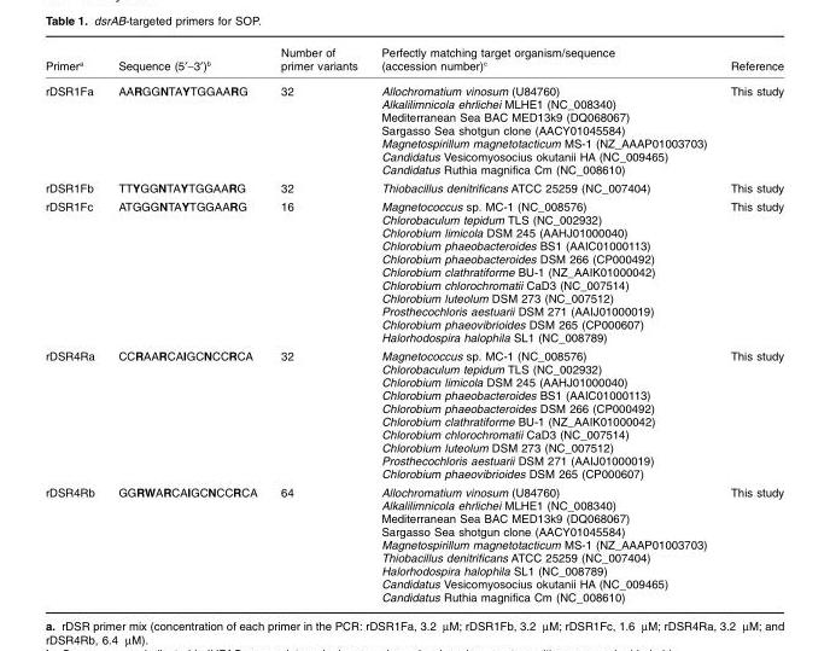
<table><thead><tr><td>Primer<sup>a</sup></td><td>Sequence (5′-3′)<sup>b</sup></td><td>Number of primer variants</td><td>Perfectly matching target organism/sequence (accession number)<sup>c</sup></td><td>Reference</td></tr></thead><tbody><tr><td>rDSR1Fa</td><td>AARGGNTAYTGGAARG</td><td>32</td><td>Allochromatium vinosum (U84760) Alkalilimnicola ehrlichei MLHE1 (NC_008340) Mediterranean Sea BAC MED13k9 (DQ068067) Sargasso Sea shotgun clone (AACY01045584) Magnetospirillum magnetotacticum MS-1 (NZ_AAAP01003703) Candidatus Vesicomyosocius okutanii HA (NC_009465) Candidatus Ruthia magnifica Cm (NC_008610)</td><td>This study</td></tr><tr><td>rDSR1Fb</td><td>TTYGGNTAYTGGAARG</td><td>32</td><td>Thiobacillus denitrificans ATCC 25259 (NC_007404)</td><td>This study</td></tr><tr><td>rDSR1Fc</td><td>ATGGGNTAYTGGAARG</td><td>16</td><td>Magnetococcus sp. MC-1 (NC_008576) Chlorobaculum tepidum TLS (NC_002932) Chlorobium limicola DSM 245 (AAHJ01000040) Chlorobium phaeobacteroides BS1 (AAIC01000113) Chlorobium phaeobacteroides DSM 266 (CP000492) Chlorobium clathratiforme BU-1 (NZ_AAIK01000042) Chlorobium chlorochromatii CaD3 (NC_007514) Chlorobium luteolum DSM 273 (NC_007512) Prosthecochloris aestuarii DSM 271 (AAIJ01000019) Chlorobium phaeovibrioides DSM 265 (CP000607) Halorhodospira halophila SL1 (NC_008789)</td><td>This study</td></tr><tr><td>rDSR4Ra</td><td>CCRAARCAIGCNCCRCA</td><td>32</td><td>Magnetococcus sp. MC-1 (NC_008576) Chlorobaculum tepidum TLS (NC_002932) Chlorobium limicola DSM 245 (AAHJ01000040) Chlorobium phaeobacteroides BS1 (AAIC01000113) Chlorobium phaeobacteroides DSM 266 (CP000492) Chlorobium clathratiforme BU-1 (NZ_AAIK01000042) Chlorobium chlorochromatii CaD3 (NC_007514) Chlorobium luteolum DSM 273 (NC_007512) Prosthecochloris aestuarii DSM 271 (AAIJ01000019) Chlorobium phaeovibrioides DSM 265 (CP000607)</td><td>This study</td></tr><tr><td>rDSR4Rb</td><td>GGRWARCAIGCNCCRCA</td><td>64</td><td>Allochromatium vinosum (U84760) Alkalilimnicola ehrlichei MLHE1 (NC_008340) Mediterranean Sea BAC MED13k9 (DQ068067) Sargasso Sea shotgun clone (AACY01045584) Magnetospirillum magnetotacticum MS-1 (NZ_AAAP01003703) Thiobacillus denitrificans ATCC 25259 (NC_007404) Halorhodospira halophila SL1 (NC_008789) Candidatus Vesicomyosocius okutanii HA (NC_009465) Candidatus Ruthia magnifica Cm (NC_008610)</td><td>This study</td></tr></tbody></table>